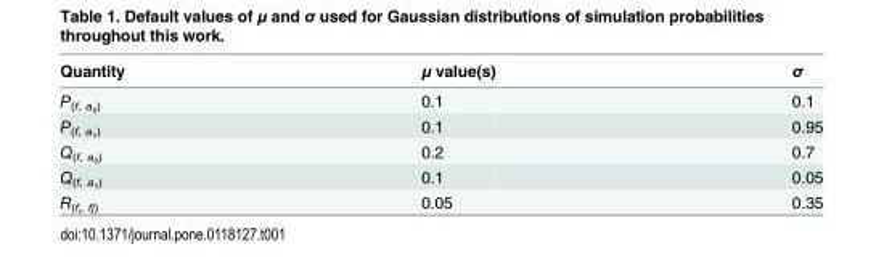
<table><thead><tr><td>Quantity</td><td>μ value(s)</td><td>σ</td></tr></thead><tbody><tr><td>P<sub>(f, a</sub>0<sub>)</sub></td><td>0.1</td><td>0.1</td></tr><tr><td>P<sub>(f, a</sub>1<sub>)</sub></td><td>0.1</td><td>0.95</td></tr><tr><td>Q<sub>(f, a</sub>0<sub>)</sub></td><td>0.2</td><td>0.7</td></tr><tr><td>Q<sub>(f, a</sub>1<sub>)</sub></td><td>0.1</td><td>0.05</td></tr><tr><td>R<sub>(f</sub>i<sub>, f</sub>j<sub>)</sub></td><td>0.05</td><td>0.35</td></tr></tbody></table>